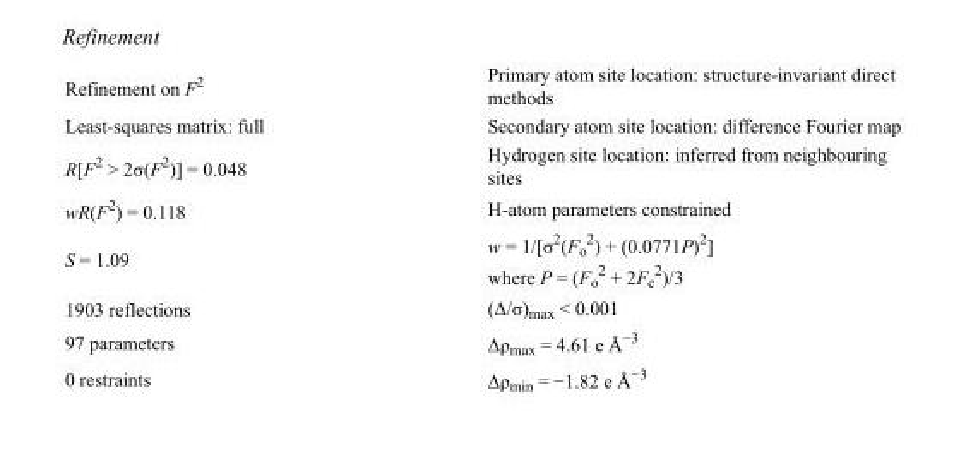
<table><tbody><tr><td>Refinement on F<sup>2</sup></td><td>Primary atom site location: structure-invariant direct methods</td></tr><tr><td>Least-squares matrix: full</td><td>Secondary atom site location: difference Fourier map</td></tr><tr><td>R[F<sup>2</sup> &gt; 2σ(F<sup>2</sup>)] = 0.048</td><td>Hydrogen site location: inferred from neighbouring sites</td></tr><tr><td>wR(F<sup>2</sup>) = 0.118</td><td>H-atom parameters constrained</td></tr><tr><td>S = 1.09</td><td>w = 1/[σ<sup>2</sup>(F<sub>o</sub> <sup>2</sup>) + (0.0771P)<sup>2</sup>] where P = (F<sub>o</sub> <sup>2</sup> + 2F<sub>c</sub> <sup>2</sup>)/3</td></tr><tr><td>1903 reflections</td><td>(Δ/σ)<sub>max</sub> &lt; 0.001</td></tr><tr><td>97 parameters</td><td>Δρ<sub>max</sub> = 4.61 e Å<sup>−3</sup></td></tr><tr><td>0 restraints</td><td>Δρmin = −1.82 e Å−3</td></tr></tbody></table>